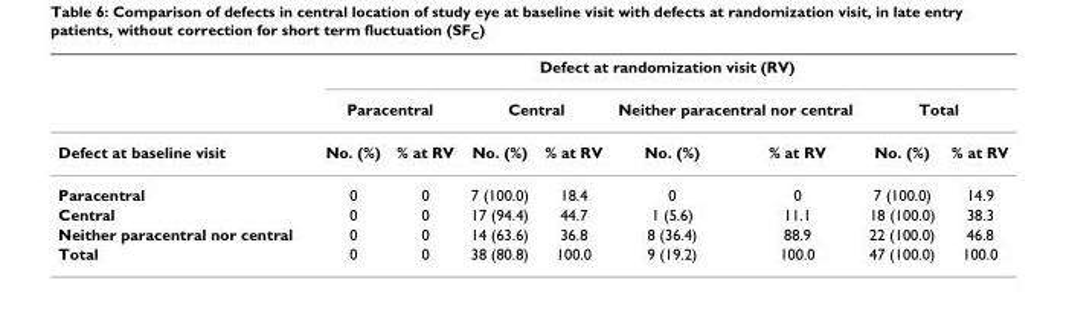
<table><thead><tr><td rowspan="3">Defect at baseline visit</td><td colspan="8">Defect at randomization visit (RV)</td></tr><tr><td colspan="2">Paracentral</td><td colspan="2">Central</td><td colspan="2">Neither paracentral nor central</td><td colspan="2">Total</td></tr><tr><td>No. (%)</td><td>% at RV</td><td>No. (%)</td><td>% at RV</td><td>No. (%)</td><td>% at RV</td><td>No. (%)</td><td>% at RV</td></tr></thead><tbody><tr><td>Paracentral</td><td>0</td><td>0</td><td>7 (100.0)</td><td>18.4</td><td>0</td><td>0</td><td>7 (100.0)</td><td>14.9</td></tr><tr><td>Central</td><td>0</td><td>0</td><td>17 (94.4)</td><td>44.7</td><td>1 (5.6)</td><td>11.1</td><td>18 (100.0)</td><td>38.3</td></tr><tr><td>Neither paracentral nor central</td><td>0</td><td>0</td><td>14 (63.6)</td><td>36.8</td><td>8 (36.4)</td><td>88.9</td><td>22 (100.0)</td><td>46.8</td></tr><tr><td>Total</td><td>0</td><td>0</td><td>38 (80.8)</td><td>100.0</td><td>9 (19.2)</td><td>100.0</td><td>47 (100.0)</td><td>100.0</td></tr></tbody></table>